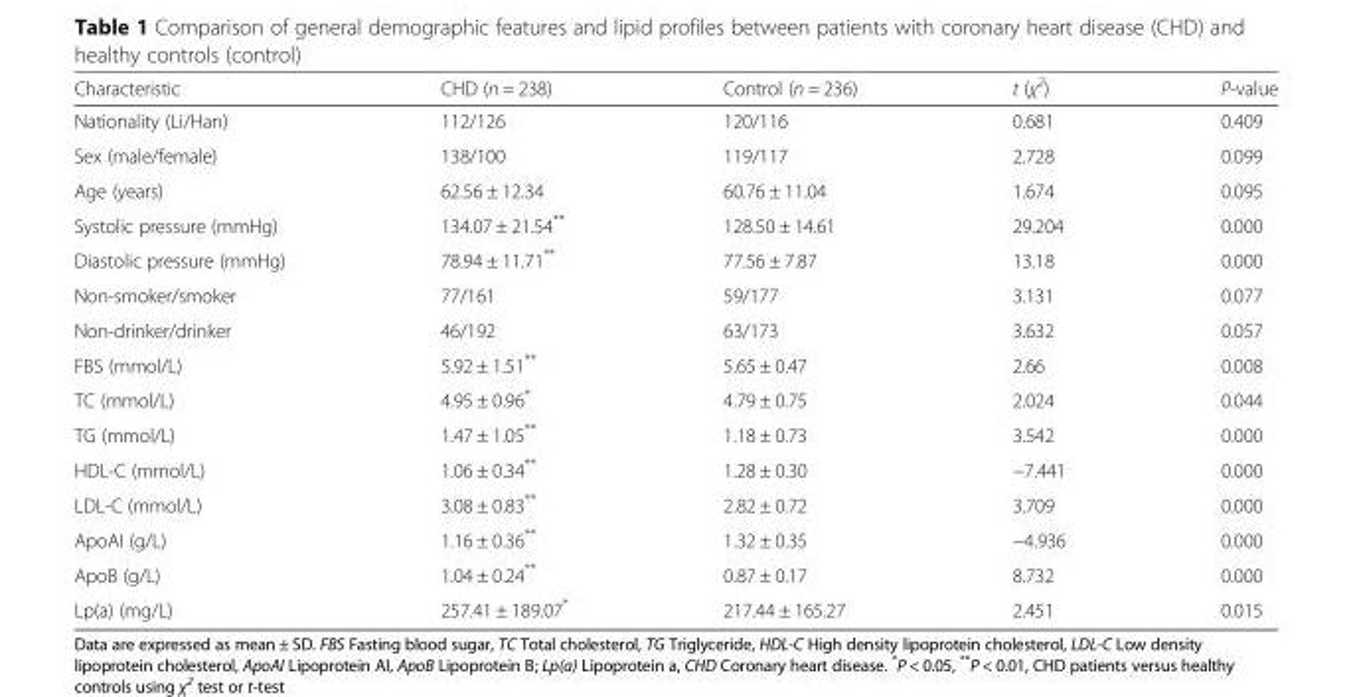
<table><thead><tr><td>Characteristic</td><td>CHD (n = 238)</td><td>Control (n = 236)</td><td>t (χ<sup>2</sup>)</td><td>P-value</td></tr></thead><tbody><tr><td>Nationality (Li/Han)</td><td>112/126</td><td>120/116</td><td>0.681</td><td>0.409</td></tr><tr><td>Sex (male/female)</td><td>138/100</td><td>119/117</td><td>2.728</td><td>0.099</td></tr><tr><td>Age (years)</td><td>62.56 ± 12.34</td><td>60.76 ± 11.04</td><td>1.674</td><td>0.095</td></tr><tr><td>Systolic pressure (mmHg)</td><td>134.07 ± 21.54**</td><td>128.50 ± 14.61</td><td>29.204</td><td>0.000</td></tr><tr><td>Diastolic pressure (mmHg)</td><td>78.94 ± 11.71**</td><td>77.56 ± 7.87</td><td>13.18</td><td>0.000</td></tr><tr><td>Non-smoker/smoker</td><td>77/161</td><td>59/177</td><td>3.131</td><td>0.077</td></tr><tr><td>Non-drinker/drinker</td><td>46/192</td><td>63/173</td><td>3.632</td><td>0.057</td></tr><tr><td>FBS (mmol/L)</td><td>5.92 ± 1.51**</td><td>5.65 ± 0.47</td><td>2.66</td><td>0.008</td></tr><tr><td>TC (mmol/L)</td><td>4.95 ± 0.96*</td><td>4.79 ± 0.75</td><td>2.024</td><td>0.044</td></tr><tr><td>TG (mmol/L)</td><td>1.47 ± 1.05**</td><td>1.18 ± 0.73</td><td>3.542</td><td>0.000</td></tr><tr><td>HDL-C (mmol/L)</td><td>1.06 ± 0.34**</td><td>1.28 ± 0.30</td><td>−7.441</td><td>0.000</td></tr><tr><td>LDL-C (mmol/L)</td><td>3.08 ± 0.83**</td><td>2.82 ± 0.72</td><td>3.709</td><td>0.000</td></tr><tr><td>ApoAI (g/L)</td><td>1.16 ± 0.36**</td><td>1.32 ± 0.35</td><td>−4.936</td><td>0.000</td></tr><tr><td>ApoB (g/L)</td><td>1.04 ± 0.24**</td><td>0.87 ± 0.17</td><td>8.732</td><td>0.000</td></tr><tr><td>Lp(a) (mg/L)</td><td>257.41 ± 189.07*</td><td>217.44 ± 165.27</td><td>2.451</td><td>0.015</td></tr></tbody></table>